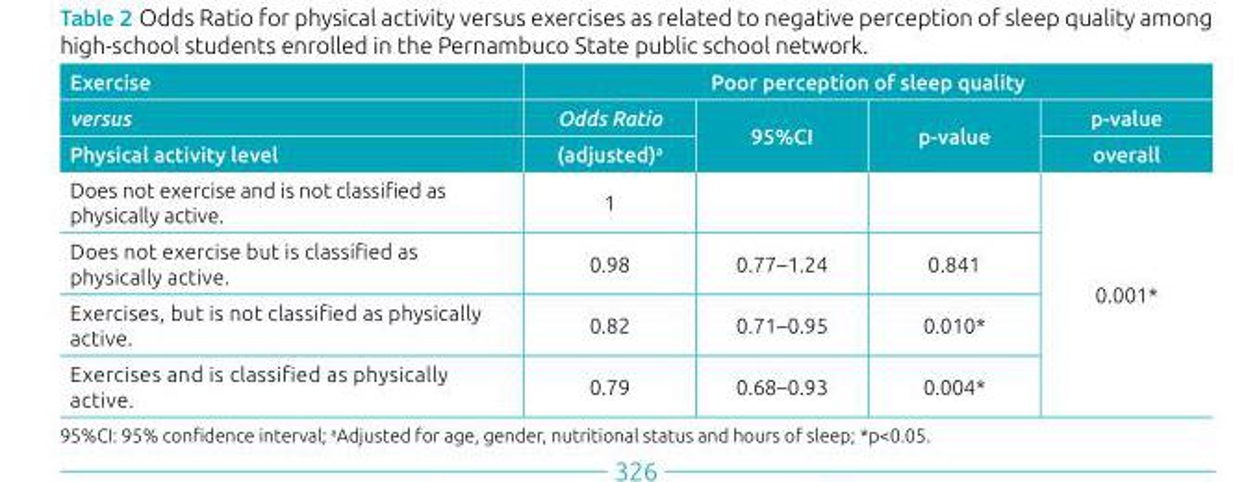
<table><thead><tr><td rowspan="3">Exercise versus Physical activity level</td><td colspan="4">Poor perception of sleep quality</td></tr><tr><td rowspan="2">Odds Ratio (adjusted)<sup>a</sup></td><td rowspan="2">95%CI</td><td rowspan="2">p‑value</td><td rowspan="2">p‑value overall</td></tr><tr></tr></thead><tbody><tr><td>Does not exercise and is not classified as physically active.</td><td>1</td><td></td><td></td><td rowspan="4">0.001*</td></tr><tr><td>Does not exercise but is classified as physically active.</td><td>0.98</td><td>0.77–1.24</td><td>0.841</td></tr><tr><td>Exercises, but is not classified as physically active.</td><td>0.82</td><td>0.71–0.95</td><td>0.010*</td></tr><tr><td>Exercises and is classified as physically active.</td><td>0.79</td><td>0.68–0.93</td><td>0.004*</td></tr></tbody></table>